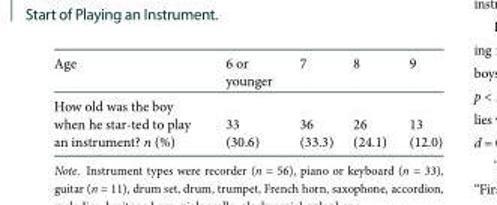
<table><thead><tr><td>Age</td><td>6 or younger</td><td>7</td><td>8</td><td>9</td></tr></thead><tbody><tr><td>How old was the boy when he star-ted to play an instrument? n (%)</td><td>33 (30.6)</td><td>36 (33.3)</td><td>26 (24.1)</td><td>13 (12.0)</td></tr></tbody></table>